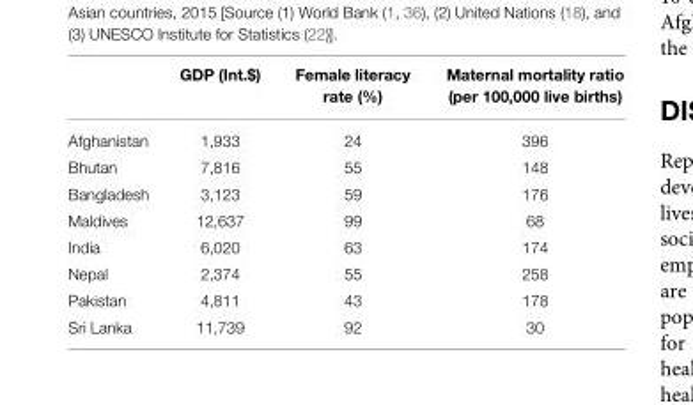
<table><thead><tr><td></td><td>GDP (Int.$)</td><td>Female literacy rate (%)</td><td>Maternal mortality ratio (per 100,000 live births)</td></tr></thead><tbody><tr><td>Afghanistan</td><td>1,933</td><td>24</td><td>396</td></tr><tr><td>Bhutan</td><td>7,816</td><td>55</td><td>148</td></tr><tr><td>Bangladesh</td><td>3,123</td><td>59</td><td>176</td></tr><tr><td>Maldives</td><td>12,637</td><td>99</td><td>68</td></tr><tr><td>India</td><td>6,020</td><td>63</td><td>174</td></tr><tr><td>Nepal</td><td>2,374</td><td>55</td><td>258</td></tr><tr><td>Pakistan</td><td>4,811</td><td>43</td><td>178</td></tr><tr><td>Sri Lanka</td><td>11,739</td><td>92</td><td>30</td></tr></tbody></table>